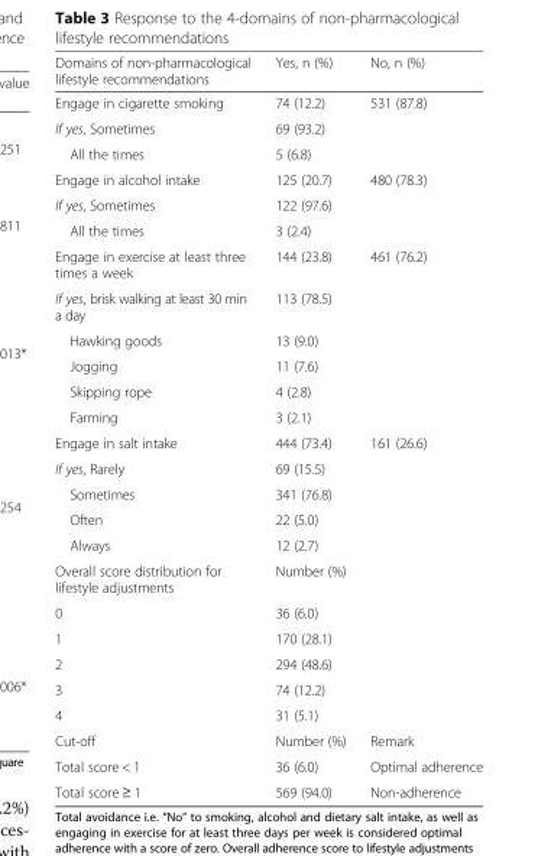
<table><thead><tr><td>Domains of non-pharmacological lifestyle recommendations</td><td>Yes, n (%)</td><td>No, n (%)</td></tr></thead><tbody><tr><td>Engage in cigarette smoking</td><td>74 (12.2)</td><td>531 (87.8)</td></tr><tr><td>If yes, Sometimes</td><td>69 (93.2)</td><td></td></tr><tr><td>All the times</td><td>5 (6.8)</td><td></td></tr><tr><td>Engage in alcohol intake</td><td>125 (20.7)</td><td>480 (78.3)</td></tr><tr><td>If yes, Sometimes</td><td>122 (97.6)</td><td></td></tr><tr><td>All the times</td><td>3 (2.4)</td><td></td></tr><tr><td>Engage in exercise at least three times a week</td><td>144 (23.8)</td><td>461 (76.2)</td></tr><tr><td>If yes, brisk walking at least 30 min a day</td><td>113 (78.5)</td><td></td></tr><tr><td>Hawking goods</td><td>13 (9.0)</td><td></td></tr><tr><td>Jogging</td><td>11 (7.6)</td><td></td></tr><tr><td>Skipping rope</td><td>4 (2.8)</td><td></td></tr><tr><td>Farming</td><td>3 (2.1)</td><td></td></tr><tr><td>Engage in salt intake</td><td>444 (73.4)</td><td>161 (26.6)</td></tr><tr><td>If yes, Rarely</td><td>69 (15.5)</td><td></td></tr><tr><td>Sometimes</td><td>341 (76.8)</td><td></td></tr><tr><td>Often</td><td>22 (5.0)</td><td></td></tr><tr><td>Always</td><td>12 (2.7)</td><td></td></tr><tr><td>Overall score distribution for lifestyle adjustments</td><td>Number (%)</td><td></td></tr><tr><td>0</td><td>36 (6.0)</td><td></td></tr><tr><td>1</td><td>170 (28.1)</td><td></td></tr><tr><td>2</td><td>294 (48.6)</td><td></td></tr><tr><td>3</td><td>74 (12.2)</td><td></td></tr><tr><td>4</td><td>31 (5.1)</td><td></td></tr><tr><td>Cut-off</td><td>Number (%)</td><td>Remark</td></tr><tr><td>Total score &lt; 1</td><td>36 (6.0)</td><td>Optimal adherence</td></tr><tr><td>Total score ≥ 1</td><td>569 (94.0)</td><td>Non-adherence</td></tr></tbody></table>